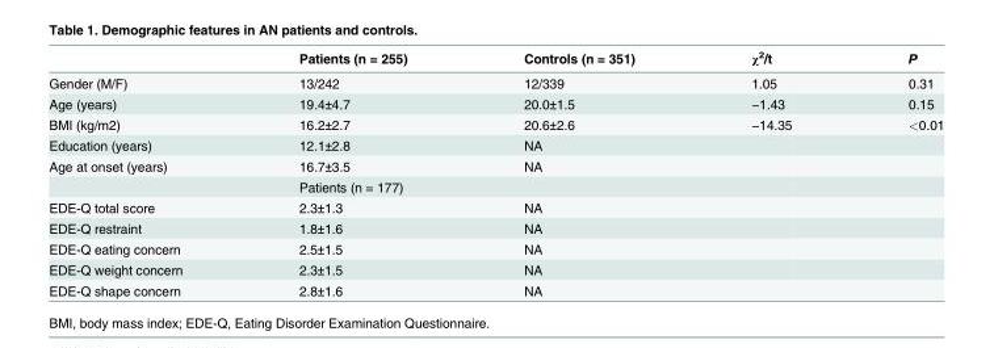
<table><thead><tr><td></td><td>Patients (n = 255)</td><td>Controls (n = 351)</td><td>χ<sup>2</sup>/t</td><td>P</td></tr></thead><tbody><tr><td>Gender (M/F)</td><td>13/242</td><td>12/339</td><td>1.05</td><td>0.31</td></tr><tr><td>Age (years)</td><td>19.4±4.7</td><td>20.0±1.5</td><td>−1.43</td><td>0.15</td></tr><tr><td>BMI (kg/m2)</td><td>16.2±2.7</td><td>20.6±2.6</td><td>−14.35</td><td>&lt;0.01</td></tr><tr><td>Education (years)</td><td>12.1±2.8</td><td>NA</td><td></td><td></td></tr><tr><td rowspan="2">Age at onset (years)</td><td>16.7±3.5</td><td>NA</td><td></td><td></td></tr><tr><td>Patients (n = 177)</td><td></td><td></td><td></td></tr><tr><td>EDE-Q total score</td><td>2.3±1.3</td><td>NA</td><td></td><td></td></tr><tr><td>EDE-Q restraint</td><td>1.8±1.6</td><td>NA</td><td></td><td></td></tr><tr><td>EDE-Q eating concern</td><td>2.5±1.5</td><td>NA</td><td></td><td></td></tr><tr><td>EDE-Q weight concern</td><td>2.3±1.5</td><td>NA</td><td></td><td></td></tr><tr><td>EDE-Q shape concern</td><td>2.8±1.6</td><td>NA</td><td></td><td></td></tr></tbody></table>